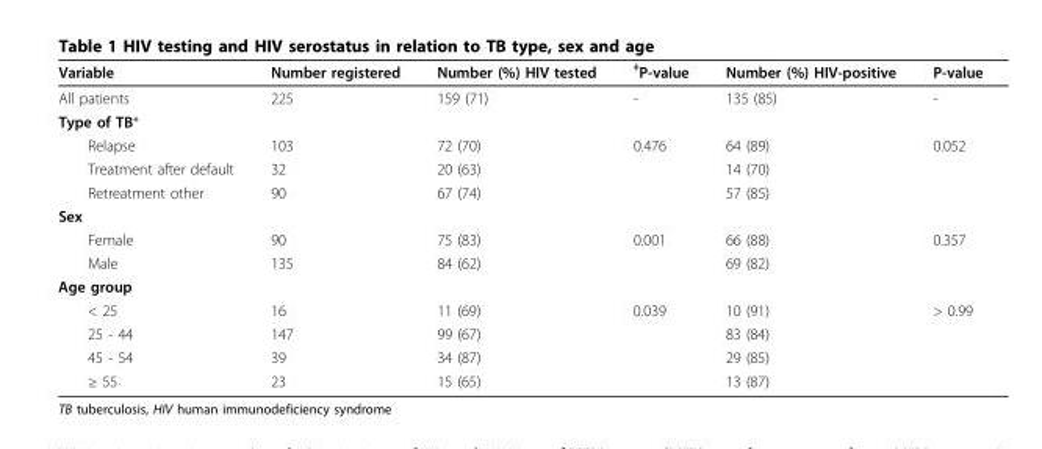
<table><thead><tr><td>Variable</td><td>Number registered</td><td>Number (%) HIV tested</td><td><sup>ǂ</sup>P-value</td><td>Number (%) HIV-positive</td><td>P-value</td></tr></thead><tbody><tr><td>All patients</td><td>225</td><td>159 (71)</td><td>-</td><td>135 (85)</td><td>-</td></tr><tr><td colspan="6">Type of TB*</td></tr><tr><td>Relapse</td><td>103</td><td>72 (70)</td><td>0.476</td><td>64 (89)</td><td>0.052</td></tr><tr><td>Treatment after default</td><td>32</td><td>20 (63)</td><td></td><td>14 (70)</td><td></td></tr><tr><td>Retreatment other</td><td>90</td><td>67 (74)</td><td></td><td>57 (85)</td><td></td></tr><tr><td colspan="6">Sex</td></tr><tr><td>Female</td><td>90</td><td>75 (83)</td><td>0.001</td><td>66 (88)</td><td>0.357</td></tr><tr><td>Male</td><td>135</td><td>84 (62)</td><td></td><td>69 (82)</td><td></td></tr><tr><td colspan="6">Age group</td></tr><tr><td>&lt; 25</td><td>16</td><td>11 (69)</td><td>0.039</td><td>10 (91)</td><td>&gt; 0.99</td></tr><tr><td>25 - 44</td><td>147</td><td>99 (67)</td><td></td><td>83 (84)</td><td></td></tr><tr><td>45 - 54</td><td>39</td><td>34 (87)</td><td></td><td>29 (85)</td><td></td></tr><tr><td>≥ 55</td><td>23</td><td>15 (65)</td><td></td><td>13 (87)</td><td></td></tr></tbody></table>